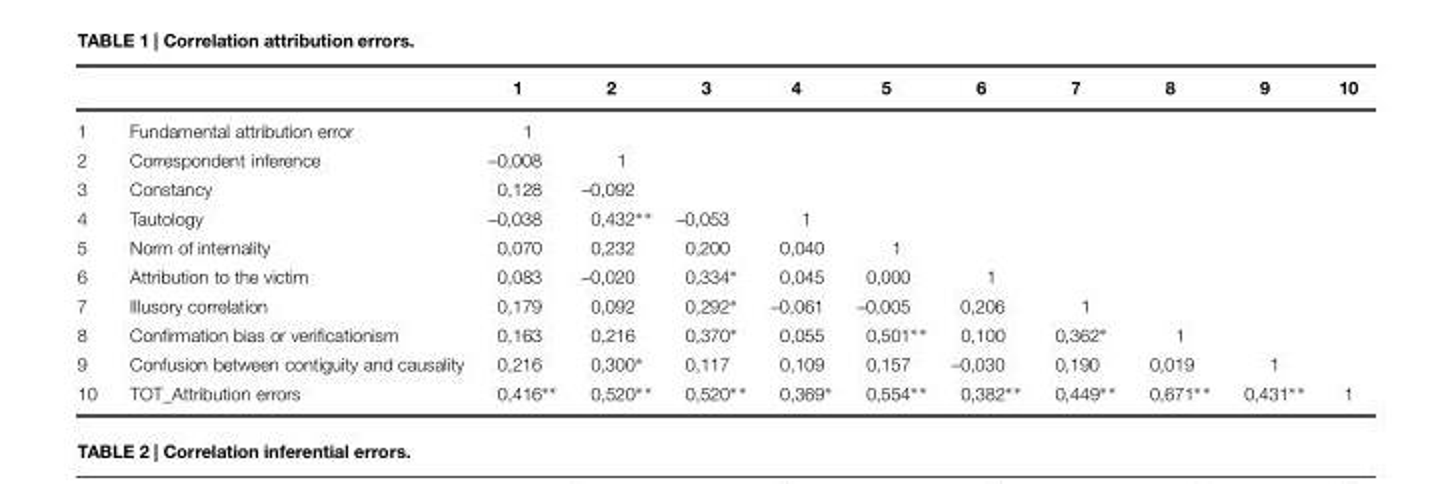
<table><thead><tr><td></td><td></td><td>1</td><td>2</td><td>3</td><td>4</td><td>5</td><td>6</td><td>7</td><td>8</td><td>9</td><td>10</td></tr></thead><tbody><tr><td>1</td><td>Fundamental attribution error</td><td>1</td><td></td><td></td><td></td><td></td><td></td><td></td><td></td><td></td><td></td></tr><tr><td>2</td><td>Correspondent inference</td><td>–0,008</td><td>1</td><td></td><td></td><td></td><td></td><td></td><td></td><td></td><td></td></tr><tr><td>3</td><td>Constancy</td><td>0,128</td><td>–0,092</td><td></td><td></td><td></td><td></td><td></td><td></td><td></td><td></td></tr><tr><td>4</td><td>Tautology</td><td>–0,038</td><td>0,432∗∗</td><td>–0,053</td><td>1</td><td></td><td></td><td></td><td></td><td></td><td></td></tr><tr><td>5</td><td>Norm of internality</td><td>0,070</td><td>0,232</td><td>0,200</td><td>0,040</td><td>1</td><td></td><td></td><td></td><td></td><td></td></tr><tr><td>6</td><td>Attribution to the victim</td><td>0,083</td><td>–0,020</td><td>0,334∗</td><td>0,045</td><td>0,000</td><td>1</td><td></td><td></td><td></td><td></td></tr><tr><td>7</td><td>Illusory correlation</td><td>0,179</td><td>0,092</td><td>0,292∗</td><td>–0,061</td><td>–0,005</td><td>0,206</td><td>1</td><td></td><td></td><td></td></tr><tr><td>8</td><td>Confirmation bias or verificationism</td><td>0,163</td><td>0,216</td><td>0,370∗</td><td>0,055</td><td>0,501∗∗</td><td>0,100</td><td>0,362∗</td><td>1</td><td></td><td></td></tr><tr><td>9</td><td>Confusion between contiguity and causality</td><td>0,216</td><td>0,300∗</td><td>0,117</td><td>0,109</td><td>0,157</td><td>–0,030</td><td>0,190</td><td>0,019</td><td>1</td><td></td></tr><tr><td>10</td><td>TOT_Attribution errors</td><td>0,416∗∗</td><td>0,520∗∗</td><td>0,520∗∗</td><td>0,369∗</td><td>0,554∗∗</td><td>0,382∗∗</td><td>0,449∗∗</td><td>0,671∗∗</td><td>0,431∗∗</td><td>1</td></tr></tbody></table>